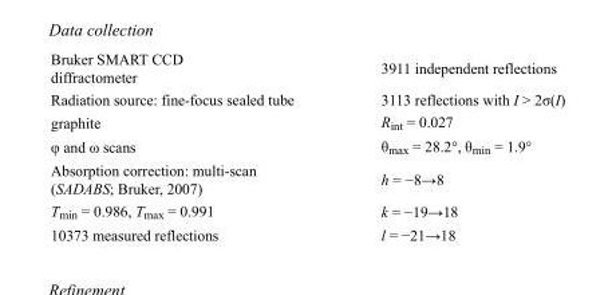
<table><tbody><tr><td>Bruker SMART CCD diffractometer</td><td>3911 independent reflections</td></tr><tr><td>Radiation source: fine-focus sealed tube</td><td>3113 reflections with I &gt; 2σ(I)</td></tr><tr><td>graphite</td><td>R<sub>int</sub> = 0.027</td></tr><tr><td>φ and ω scans</td><td>θ<sub>max</sub> = 28.2°, θ<sub>min</sub> = 1.9°</td></tr><tr><td>Absorption correction: multi-scan (SADABS; Bruker, 2007)</td><td>h = −8→8</td></tr><tr><td>T<sub>min</sub> = 0.986, T<sub>max</sub> = 0.991</td><td>k = −19→18</td></tr><tr><td>10373 measured reflections</td><td>l = −21→18</td></tr></tbody></table>